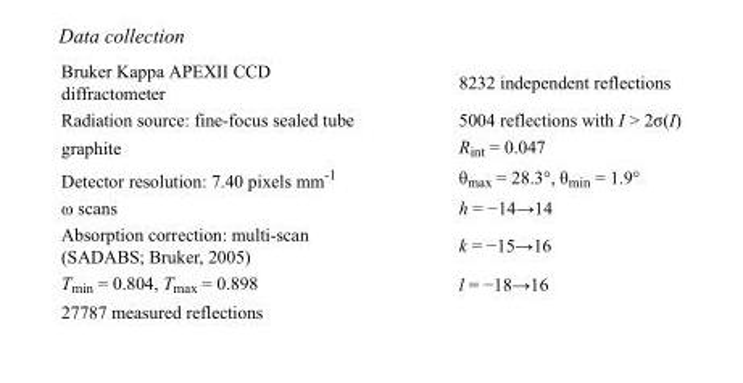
<table><tbody><tr><td>Bruker Kappa APEXII CCD diffractometer</td><td>8232 independent reflections</td></tr><tr><td>Radiation source: fine-focus sealed tube</td><td>5004 reflections with I &gt; 2σ(I)</td></tr><tr><td>graphite</td><td>R<sub>int</sub> = 0.047</td></tr><tr><td>Detector resolution: 7.40 pixels mm<sup>-1</sup></td><td>θ<sub>max</sub> = 28.3°, θ<sub>min</sub> = 1.9°</td></tr><tr><td>ω scans</td><td>h = −14→14</td></tr><tr><td>Absorption correction: multi-scan (SADABS; Bruker, 2005)</td><td>k = −15→16</td></tr><tr><td>T<sub>min</sub> = 0.804, T<sub>max</sub> = 0.898</td><td>l = −18→16</td></tr><tr><td>27787 measured reflections</td><td></td></tr></tbody></table>